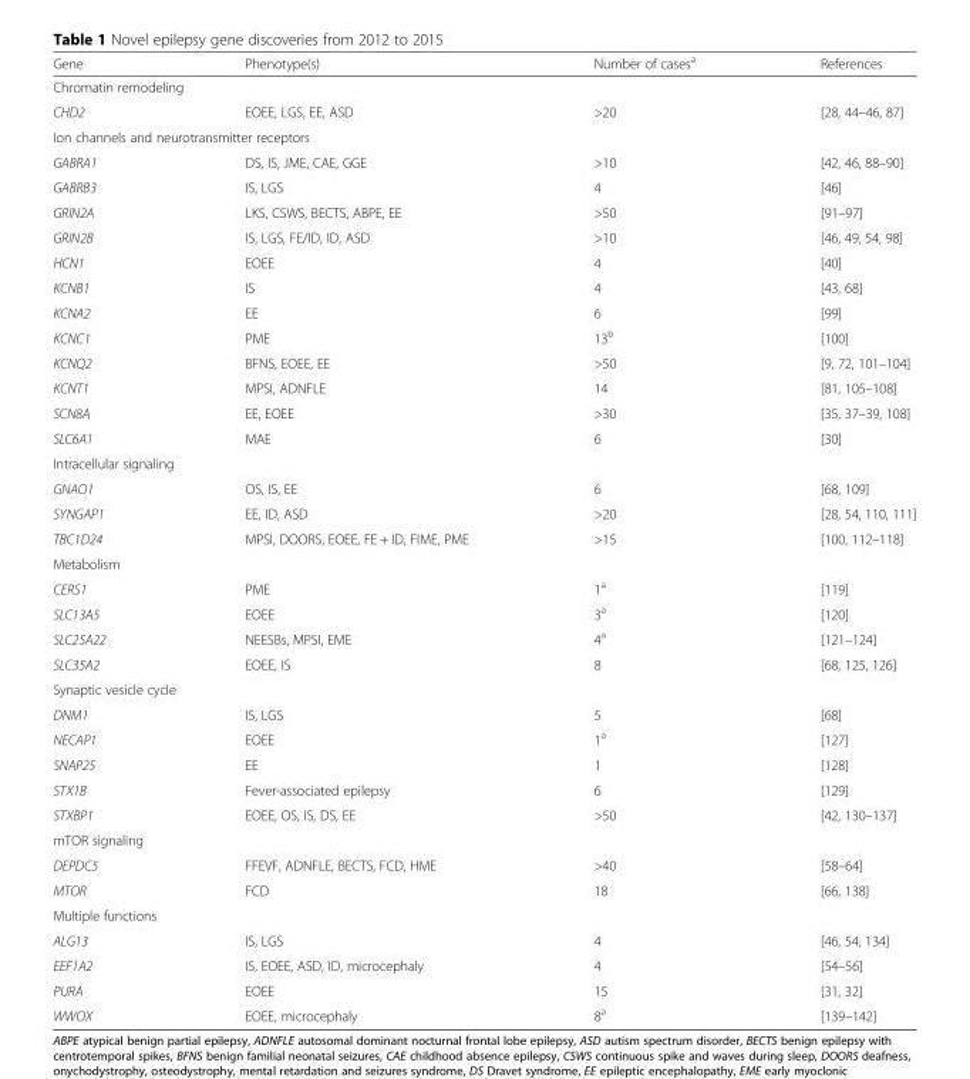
<table><thead><tr><td>Gene</td><td>Phenotype(s)</td><td>Number of cases<sup>a</sup></td><td>References</td></tr></thead><tbody><tr><td colspan="4">Chromatin remodeling</td></tr><tr><td>CHD2</td><td>EOEE, LGS, EE, ASD</td><td>&gt;20</td><td>[28, 44–46, 87]</td></tr><tr><td colspan="4">Ion channels and neurotransmitter receptors</td></tr><tr><td>GABRA1</td><td>DS, IS, JME, CAE, GGE</td><td>&gt;10</td><td>[42, 46, 88–90]</td></tr><tr><td>GABRB3</td><td>IS, LGS</td><td>4</td><td>[46]</td></tr><tr><td>GRIN2A</td><td>LKS, CSWS, BECTS, ABPE, EE</td><td>&gt;50</td><td>[91–97]</td></tr><tr><td>GRIN2B</td><td>IS, LGS, FE/ID, ID, ASD</td><td>&gt;10</td><td>[46, 49, 54, 98]</td></tr><tr><td>HCN1</td><td>EOEE</td><td>4</td><td>[40]</td></tr><tr><td>KCNB1</td><td>IS</td><td>4</td><td>[43, 68]</td></tr><tr><td>KCNA2</td><td>EE</td><td>6</td><td>[99]</td></tr><tr><td>KCNC1</td><td>PME</td><td>13<sup>b</sup></td><td>[100]</td></tr><tr><td>KCNQ2</td><td>BFNS, EOEE, EE</td><td>&gt;50</td><td>[9, 72, 101–104]</td></tr><tr><td>KCNT1</td><td>MPSI, ADNFLE</td><td>14</td><td>[81, 105–108]</td></tr><tr><td>SCN8A</td><td>EE, EOEE</td><td>&gt;30</td><td>[35, 37–39, 108]</td></tr><tr><td>SLC6A1</td><td>MAE</td><td>6</td><td>[30]</td></tr><tr><td colspan="4">Intracellular signaling</td></tr><tr><td>GNAO1</td><td>OS, IS, EE</td><td>6</td><td>[68, 109]</td></tr><tr><td>SYNGAP1</td><td>EE, ID, ASD</td><td>&gt;20</td><td>[28, 54, 110, 111]</td></tr><tr><td>TBC1D24</td><td>MPSI, DOORS, EOEE, FE + ID, FIME, PME</td><td>&gt;15</td><td>[100, 112–118]</td></tr><tr><td colspan="4">Metabolism</td></tr><tr><td>CERS1</td><td>PME</td><td>1<sup>a</sup></td><td>[119]</td></tr><tr><td>SLC13A5</td><td>EOEE</td><td>3<sup>a</sup></td><td>[120]</td></tr><tr><td>SLC25A22</td><td>NEESBs, MPSI, EME</td><td>4<sup>a</sup></td><td>[121–124]</td></tr><tr><td>SLC35A2</td><td>EOEE, IS</td><td>8</td><td>[68, 125, 126]</td></tr><tr><td colspan="4">Synaptic vesicle cycle</td></tr><tr><td>DNM1</td><td>IS, LGS</td><td>5</td><td>[68]</td></tr><tr><td>NECAP1</td><td>EOEE</td><td>1<sup>a</sup></td><td>[127]</td></tr><tr><td>SNAP25</td><td>EE</td><td>1</td><td>[128]</td></tr><tr><td>STX1B</td><td>Fever-associated epilepsy</td><td>6</td><td>[129]</td></tr><tr><td>STXBP1</td><td>EOEE, OS, IS, DS, EE</td><td>&gt;50</td><td>[42, 130–137]</td></tr><tr><td colspan="4">mTOR signaling</td></tr><tr><td>DEPDC5</td><td>FFEVF, ADNFLE, BECTS, FCD, HME</td><td>&gt;40</td><td>[58–64]</td></tr><tr><td>MTOR</td><td>FCD</td><td>18</td><td>[66, 138]</td></tr><tr><td colspan="4">Multiple functions</td></tr><tr><td>ALG13</td><td>IS, LGS</td><td>4</td><td>[46, 54, 134]</td></tr><tr><td>EEF1A2</td><td>IS, EOEE, ASD, ID, microcephaly</td><td>4</td><td>[54–56]</td></tr><tr><td>PURA</td><td>EOEE</td><td>15</td><td>[31, 32]</td></tr><tr><td>WWOX</td><td>EOEE, microcephaly</td><td>8<sup>a</sup></td><td>[139–142]</td></tr></tbody></table>